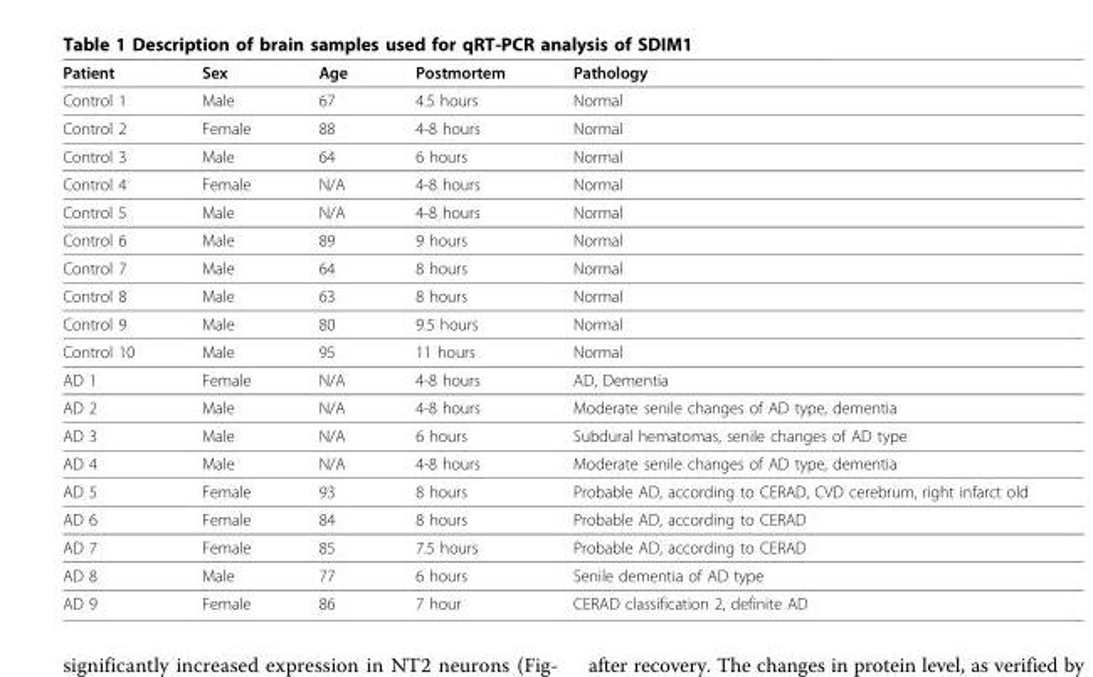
<table><thead><tr><td>Patient</td><td>Sex</td><td>Age</td><td>Postmortem</td><td>Pathology</td></tr></thead><tbody><tr><td>Control 1</td><td>Male</td><td>67</td><td>4.5 hours</td><td>Normal</td></tr><tr><td>Control 2</td><td>Female</td><td>88</td><td>4-8 hours</td><td>Normal</td></tr><tr><td>Control 3</td><td>Male</td><td>64</td><td>6 hours</td><td>Normal</td></tr><tr><td>Control 4</td><td>Female</td><td>N/A</td><td>4-8 hours</td><td>Normal</td></tr><tr><td>Control 5</td><td>Male</td><td>N/A</td><td>4-8 hours</td><td>Normal</td></tr><tr><td>Control 6</td><td>Male</td><td>89</td><td>9 hours</td><td>Normal</td></tr><tr><td>Control 7</td><td>Male</td><td>64</td><td>8 hours</td><td>Normal</td></tr><tr><td>Control 8</td><td>Male</td><td>63</td><td>8 hours</td><td>Normal</td></tr><tr><td>Control 9</td><td>Male</td><td>80</td><td>9.5 hours</td><td>Normal</td></tr><tr><td>Control 10</td><td>Male</td><td>95</td><td>11 hours</td><td>Normal</td></tr><tr><td>AD 1</td><td>Female</td><td>N/A</td><td>4-8 hours</td><td>AD, Dementia</td></tr><tr><td>AD 2</td><td>Male</td><td>N/A</td><td>4-8 hours</td><td>Moderate senile changes of AD type, dementia</td></tr><tr><td>AD 3</td><td>Male</td><td>N/A</td><td>6 hours</td><td>Subdural hematomas, senile changes of AD type</td></tr><tr><td>AD 4</td><td>Male</td><td>N/A</td><td>4-8 hours</td><td>Moderate senile changes of AD type, dementia</td></tr><tr><td>AD 5</td><td>Female</td><td>93</td><td>8 hours</td><td>Probable AD, according to CERAD, CVD cerebrum, right infarct old</td></tr><tr><td>AD 6</td><td>Female</td><td>84</td><td>8 hours</td><td>Probable AD, according to CERAD</td></tr><tr><td>AD 7</td><td>Female</td><td>85</td><td>7.5 hours</td><td>Probable AD, according to CERAD</td></tr><tr><td>AD 8</td><td>Male</td><td>77</td><td>6 hours</td><td>Senile dementia of AD type</td></tr><tr><td>AD 9</td><td>Female</td><td>86</td><td>7 hour</td><td>CERAD classification 2, definite AD</td></tr></tbody></table>